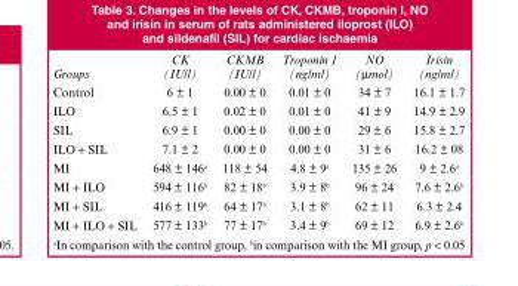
<table><thead><tr><td>Groups</td><td>CK (IU/l)</td><td>CKMB (IU/l)</td><td>Troponin 1 (ng/ml)</td><td>NO (μmol)</td><td>Irisin (ng/ml)</td></tr></thead><tbody><tr><td>Control</td><td>6 ± 1</td><td>0.00 ± 0</td><td>0.01 ± 0</td><td>34 ± 7</td><td>16.1 ± 1.7</td></tr><tr><td>ILO</td><td>6.5 ± 1</td><td>0.02 ± 0</td><td>0.01 ± 0</td><td>41 ± 9</td><td>14.9 ± 2.9</td></tr><tr><td>SIL</td><td>6.9 ± 1</td><td>0.00 ± 0</td><td>0.00 ± 0</td><td>29 ± 6</td><td>15.8 ± 2.7</td></tr><tr><td>ILO + SIL</td><td>7.1 ± 2</td><td>0.00 ± 0</td><td>0.00 ± 0</td><td>31 ± 6</td><td>16.2 ± 08</td></tr><tr><td>MI</td><td>648 ± 146<sup>a</sup></td><td>118 ± 54</td><td>4.8 ± 9<sup>a</sup></td><td>135 ± 26</td><td>9 ± 2.6<sup>a</sup></td></tr><tr><td>MI + ILO</td><td>594 ± 116<sup>b</sup></td><td>82 ± 18<sup>b</sup></td><td>3.9 ± 8<sup>b</sup></td><td>96 ± 24</td><td>7.6 ± 2.6<sup>b</sup></td></tr><tr><td>MI + SIL</td><td>416 ± 119<sup>b</sup></td><td>64 ± 17<sup>b</sup></td><td>3.1 ± 8<sup>b</sup></td><td>62 ± 11</td><td>6.3 ± 2.4</td></tr><tr><td>MI + ILO + SIL</td><td>577 ± 133<sup>b</sup></td><td>77 ± 17<sup>b</sup></td><td>3.4 ± 9<sup>b</sup></td><td>69 ± 12</td><td>6.9 ± 2.6<sup>b</sup></td></tr></tbody></table>